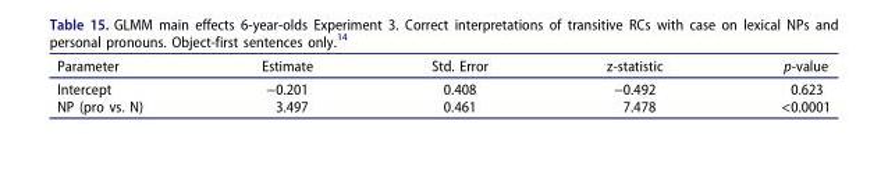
<table><thead><tr><td>Parameter</td><td>Estimate</td><td>Std. Error</td><td>z-statistic</td><td>p-value</td></tr></thead><tbody><tr><td>Intercept</td><td>−0.201</td><td>0.408</td><td>−0.492</td><td>0.623</td></tr><tr><td>NP (pro vs. N)</td><td>3.497</td><td>0.461</td><td>7.478</td><td>&lt;0.0001</td></tr></tbody></table>